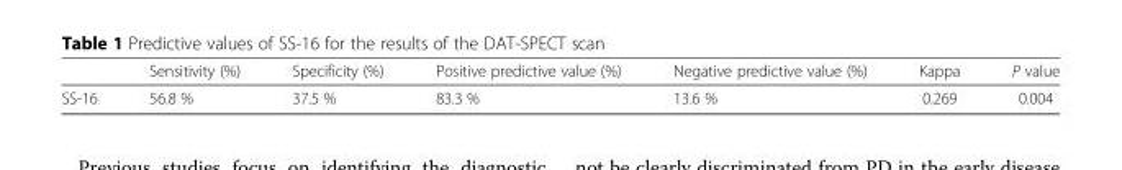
<table><thead><tr><td></td><td>Sensitivity (%)</td><td>Specificity (%)</td><td>Positive predictive value (%)</td><td>Negative predictive value (%)</td><td>Kappa</td><td>P value</td></tr></thead><tbody><tr><td>SS-16</td><td>56.8 %</td><td>37.5 %</td><td>83.3 %</td><td>13.6 %</td><td>0.269</td><td>0.004</td></tr></tbody></table>